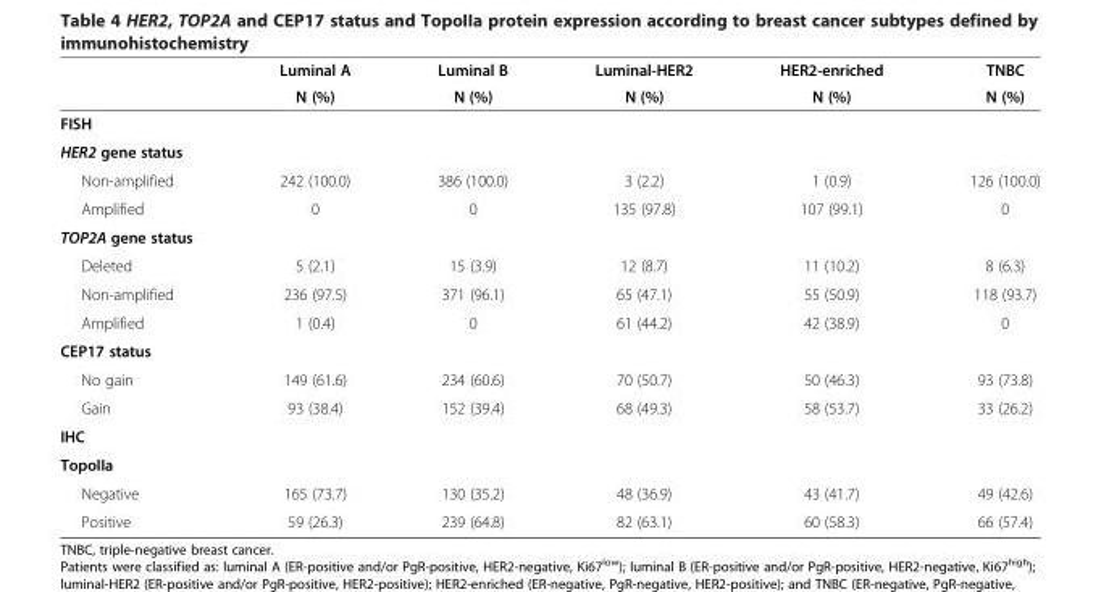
<table><thead><tr><td rowspan="2"></td><td rowspan="2">Luminal A N (%)</td><td rowspan="2">Luminal B N (%)</td><td rowspan="2">Luminal-HER2 N (%)</td><td rowspan="2">HER2-enriched N (%)</td><td rowspan="2">TNBC N (%)</td></tr><tr></tr></thead><tbody><tr><td colspan="6">FISH</td></tr><tr><td colspan="6">HER2 gene status</td></tr><tr><td>Non-amplified</td><td>242 (100.0)</td><td>386 (100.0)</td><td>3 (2.2)</td><td>1 (0.9)</td><td>126 (100.0)</td></tr><tr><td>Amplified</td><td>0</td><td>0</td><td>135 (97.8)</td><td>107 (99.1)</td><td>0</td></tr><tr><td colspan="6">TOP2A gene status</td></tr><tr><td>Deleted</td><td>5 (2.1)</td><td>15 (3.9)</td><td>12 (8.7)</td><td>11 (10.2)</td><td>8 (6.3)</td></tr><tr><td>Non-amplified</td><td>236 (97.5)</td><td>371 (96.1)</td><td>65 (47.1)</td><td>55 (50.9)</td><td>118 (93.7)</td></tr><tr><td>Amplified</td><td>1 (0.4)</td><td>0</td><td>61 (44.2)</td><td>42 (38.9)</td><td>0</td></tr><tr><td colspan="6">CEP17 status</td></tr><tr><td>No gain</td><td>149 (61.6)</td><td>234 (60.6)</td><td>70 (50.7)</td><td>50 (46.3)</td><td>93 (73.8)</td></tr><tr><td>Gain</td><td>93 (38.4)</td><td>152 (39.4)</td><td>68 (49.3)</td><td>58 (53.7)</td><td>33 (26.2)</td></tr><tr><td colspan="6">IHC</td></tr><tr><td colspan="6">TopoIIa</td></tr><tr><td>Negative</td><td>165 (73.7)</td><td>130 (35.2)</td><td>48 (36.9)</td><td>43 (41.7)</td><td>49 (42.6)</td></tr><tr><td>Positive</td><td>59 (26.3)</td><td>239 (64.8)</td><td>82 (63.1)</td><td>60 (58.3)</td><td>66 (57.4)</td></tr></tbody></table>